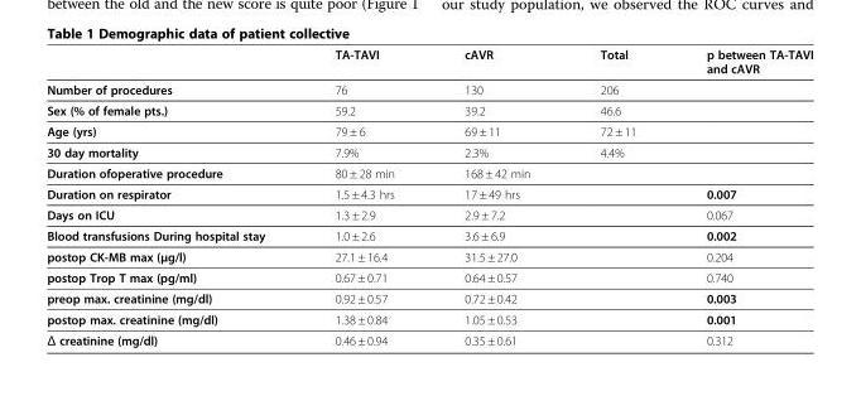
<table><thead><tr><td></td><td>TA-TAVI</td><td>cAVR</td><td>Total</td><td>p between TA-TAVI and cAVR</td></tr></thead><tbody><tr><td>Number of procedures</td><td>76</td><td>130</td><td>206</td><td></td></tr><tr><td>Sex (% of female pts.)</td><td>59.2</td><td>39.2</td><td>46.6</td><td></td></tr><tr><td>Age (yrs)</td><td>79 ± 6</td><td>69 ± 11</td><td>72 ± 11</td><td></td></tr><tr><td>30 day mortality</td><td>7.9%</td><td>2.3%</td><td>4.4%</td><td></td></tr><tr><td>Duration ofoperative procedure</td><td>80 ± 28 min</td><td>168 ± 42 min</td><td></td><td></td></tr><tr><td>Duration on respirator</td><td>1.5 ± 4.3 hrs</td><td>17 ± 49 hrs</td><td></td><td>0.007</td></tr><tr><td>Days on ICU</td><td>1.3 ± 2.9</td><td>2.9 ± 7.2</td><td></td><td>0.067</td></tr><tr><td>Blood transfusions During hospital stay</td><td>1.0 ± 2.6</td><td>3.6 ± 6.9</td><td></td><td>0.002</td></tr><tr><td>postop CK-MB max (µg/l)</td><td>27.1 ± 16.4</td><td>31.5 ± 27.0</td><td></td><td>0.204</td></tr><tr><td>postop Trop T max (pg/ml)</td><td>0.67 ± 0.71</td><td>0.64 ± 0.57</td><td></td><td>0.740</td></tr><tr><td>preop max. creatinine (mg/dl)</td><td>0.92 ± 0.57</td><td>0.72 ± 0.42</td><td></td><td>0.003</td></tr><tr><td>postop max. creatinine (mg/dl)</td><td>1.38 ± 0.84</td><td>1.05 ± 0.53</td><td></td><td>0.001</td></tr><tr><td>Δ creatinine (mg/dl)</td><td>0.46 ± 0.94</td><td>0.35 ± 0.61</td><td></td><td>0.312</td></tr></tbody></table>